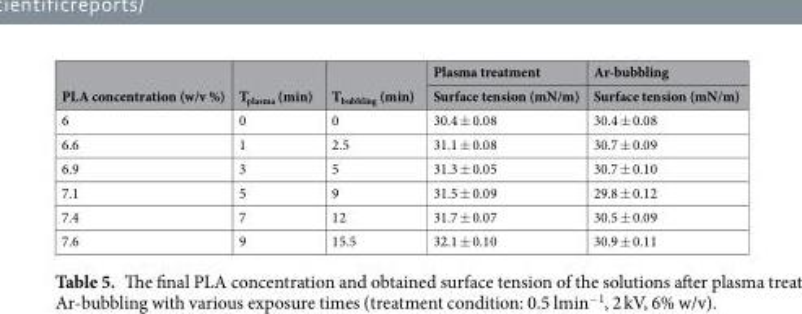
<table><thead><tr><td rowspan="2">PLA concentration (w/v %)</td><td rowspan="2">T<sub>plasma</sub> (min)</td><td rowspan="2">T<sub>bubbling</sub> (min)</td><td rowspan="2">Plasma treatment Surface tension (mN/m)</td><td rowspan="2">Ar-bubbling Surface tension (mN/m)</td></tr><tr></tr></thead><tbody><tr><td>6</td><td>0</td><td>0</td><td>30.4 ± 0.08</td><td>30.4 ± 0.08</td></tr><tr><td>6.6</td><td>1</td><td>2.5</td><td>31.1 ± 0.08</td><td>30.7 ± 0.09</td></tr><tr><td>6.9</td><td>3</td><td>5</td><td>31.3 ± 0.05</td><td>30.7 ± 0.10</td></tr><tr><td>7.1</td><td>5</td><td>9</td><td>31.5 ± 0.09</td><td>29.8 ± 0.12</td></tr><tr><td>7.4</td><td>7</td><td>12</td><td>31.7 ± 0.07</td><td>30.5 ± 0.09</td></tr><tr><td>7.6</td><td>9</td><td>15.5</td><td>32.1 ± 0.10</td><td>30.9 ± 0.11</td></tr></tbody></table>